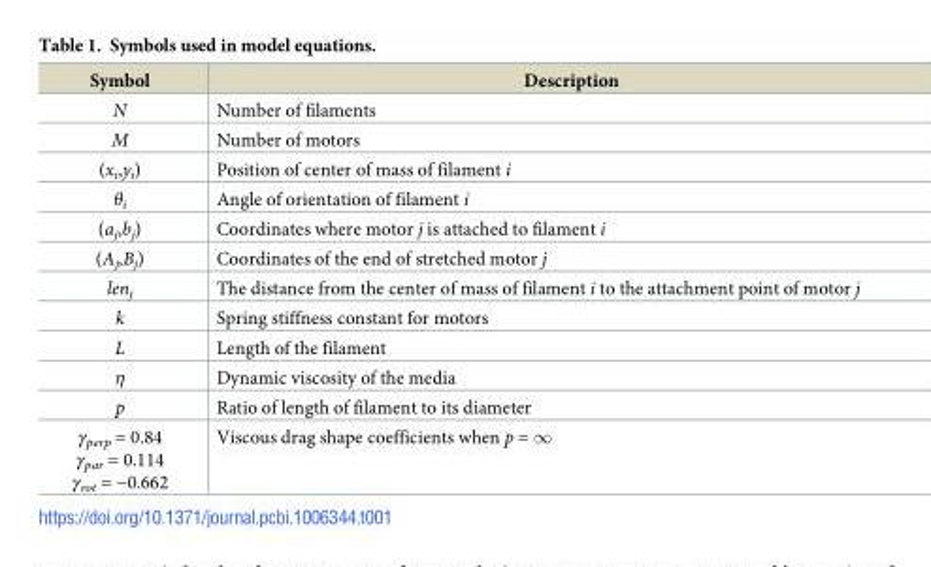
<table><thead><tr><td>Symbol</td><td>Description</td></tr></thead><tbody><tr><td>N</td><td>Number of filaments</td></tr><tr><td>M</td><td>Number of motors</td></tr><tr><td>(x<sub>i</sub>,y<sub>i</sub>)</td><td>Position of center of mass of filament i</td></tr><tr><td>θ<sub>i</sub></td><td>Angle of orientation of filament i</td></tr><tr><td>(a<sub>j</sub>,b<sub>j</sub>)</td><td>Coordinates where motor j is attached to filament i</td></tr><tr><td>(A<sub>j</sub>,B<sub>j</sub>)</td><td>Coordinates of the end of stretched motor j</td></tr><tr><td>len<sub>j</sub></td><td>The distance from the center of mass of filament i to the attachment point of motor j</td></tr><tr><td>k</td><td>Spring stiffness constant for motors</td></tr><tr><td>L</td><td>Length of the filament</td></tr><tr><td>η</td><td>Dynamic viscosity of the media</td></tr><tr><td>p</td><td>Ratio of length of filament to its diameter</td></tr><tr><td>γ<sub>perp</sub> = 0.84 γ<sub>par</sub> = 0.114 γ<sub>rot</sub> = −0.662</td><td>Viscous drag shape coefficients when p = ∞</td></tr></tbody></table>